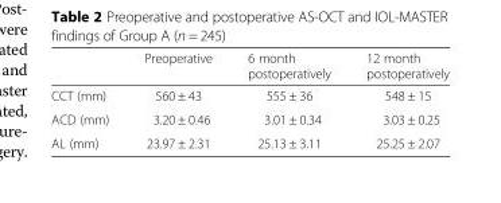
<table><thead><tr><td></td><td>Preoperative</td><td>6 month postoperatively</td><td>12 month postoperatively</td></tr></thead><tbody><tr><td>CCT (mm)</td><td>560 ± 43</td><td>555 ± 36</td><td>548 ± 15</td></tr><tr><td>ACD (mm)</td><td>3.20 ± 0.46</td><td>3.01 ± 0.34</td><td>3.03 ± 0.25</td></tr><tr><td>AL (mm)</td><td>23.97 ± 2.31</td><td>25.13 ± 3.11</td><td>25.25 ± 2.07</td></tr></tbody></table>